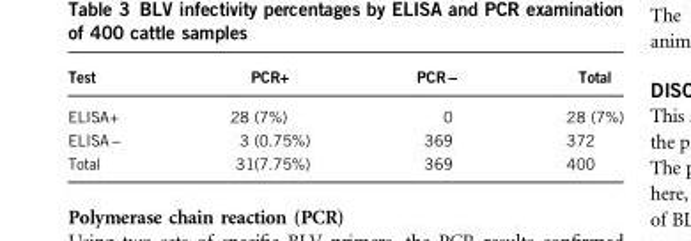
<table><thead><tr><td>Test</td><td>PCR+</td><td>PCR−</td><td>Total</td></tr></thead><tbody><tr><td>ELISA+</td><td>28 (7%)</td><td>0</td><td>28 (7%)</td></tr><tr><td>ELISA −</td><td>3 (0.75%)</td><td>369</td><td>372</td></tr><tr><td>Total</td><td>31(7.75%)</td><td>369</td><td>400</td></tr></tbody></table>